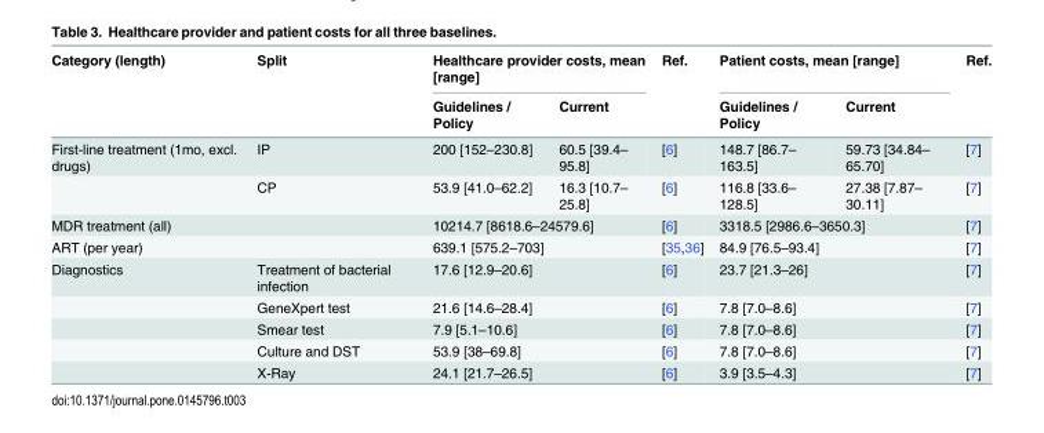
<table><thead><tr><td rowspan="2">Category (length)</td><td rowspan="2">Split</td><td colspan="2">Healthcare provider costs, mean [range]</td><td rowspan="2">Ref.</td><td colspan="2">Patient costs, mean [range]</td><td rowspan="2">Ref.</td></tr><tr><td>Guidelines / Policy</td><td>Current</td><td>Guidelines / Policy</td><td>Current</td></tr></thead><tbody><tr><td rowspan="2">First-line treatment (1mo, excl. drugs)</td><td>IP</td><td>200 [152–230.8]</td><td>60.5 [39.4– 95.8]</td><td>[6]</td><td>148.7 [86.7– 163.5]</td><td>59.73 [34.84– 65.70]</td><td>[7]</td></tr><tr><td>CP</td><td>53.9 [41.0–62.2]</td><td>16.3 [10.7– 25.8]</td><td>[6]</td><td>116.8 [33.6– 128.5]</td><td>27.38 [7.87– 30.11]</td><td>[7]</td></tr><tr><td>MDR treatment (all)</td><td></td><td colspan="2">10214.7 [8618.6–24579.6]</td><td>[6]</td><td colspan="2">3318.5 [2986.6–3650.3]</td><td>[7]</td></tr><tr><td>ART (per year)</td><td></td><td colspan="2">639.1 [575.2–703]</td><td>[35,36]</td><td colspan="2">84.9 [76.5–93.4]</td><td>[7]</td></tr><tr><td rowspan="5">Diagnostics</td><td>Treatment of bacterial infection</td><td colspan="2">17.6 [12.9–20.6]</td><td>[6]</td><td colspan="2">23.7 [21.3–26]</td><td>[7]</td></tr><tr><td>GeneXpert test</td><td colspan="2">21.6 [14.6–28.4]</td><td>[6]</td><td colspan="2">7.8 [7.0–8.6]</td><td>[7]</td></tr><tr><td>Smear test</td><td colspan="2">7.9 [5.1–10.6]</td><td>[6]</td><td colspan="2">7.8 [7.0–8.6]</td><td>[7]</td></tr><tr><td>Culture and DST</td><td colspan="2">53.9 [38–69.8]</td><td>[6]</td><td colspan="2">7.8 [7.0–8.6]</td><td>[7]</td></tr><tr><td>X-Ray</td><td colspan="2">24.1 [21.7–26.5]</td><td>[6]</td><td colspan="2">3.9 [3.5–4.3]</td><td>[7]</td></tr></tbody></table>